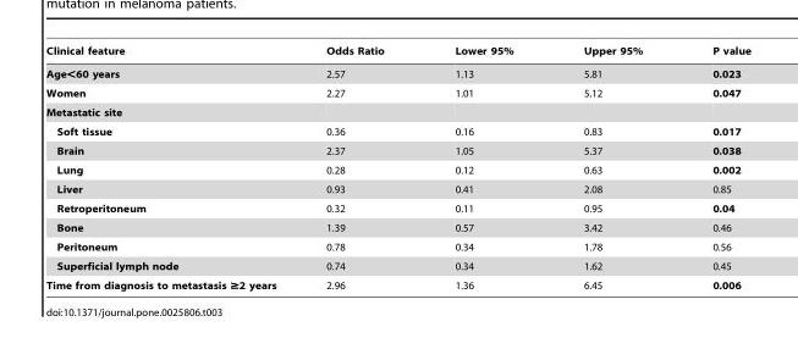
<table><thead><tr><td>Clinical feature</td><td>Odds Ratio</td><td>Lower 95%</td><td>Upper 95%</td><td>P value</td></tr></thead><tbody><tr><td>Age&lt;60 years</td><td>2.57</td><td>1.13</td><td>5.81</td><td>0.023</td></tr><tr><td>Women</td><td>2.27</td><td>1.01</td><td>5.12</td><td>0.047</td></tr><tr><td colspan="5">Metastatic site</td></tr><tr><td>Soft tissue</td><td>0.36</td><td>0.16</td><td>0.83</td><td>0.017</td></tr><tr><td>Brain</td><td>2.37</td><td>1.05</td><td>5.37</td><td>0.038</td></tr><tr><td>Lung</td><td>0.28</td><td>0.12</td><td>0.63</td><td>0.002</td></tr><tr><td>Liver</td><td>0.93</td><td>0.41</td><td>2.08</td><td>0.85</td></tr><tr><td>Retroperitoneum</td><td>0.32</td><td>0.11</td><td>0.95</td><td>0.04</td></tr><tr><td>Bone</td><td>1.39</td><td>0.57</td><td>3.42</td><td>0.46</td></tr><tr><td>Peritoneum</td><td>0.78</td><td>0.34</td><td>1.78</td><td>0.56</td></tr><tr><td>Superficial lymph node</td><td>0.74</td><td>0.34</td><td>1.62</td><td>0.45</td></tr><tr><td>Time from diagnosis to metastasis ≥2 years</td><td>2.96</td><td>1.36</td><td>6.45</td><td>0.006</td></tr></tbody></table>